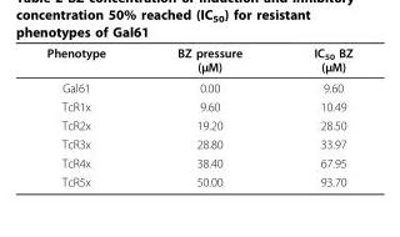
<table><thead><tr><td>Phenotype</td><td>BZ pressure (μM)</td><td>IC<sub>50</sub> BZ (μM)</td></tr></thead><tbody><tr><td>Gal61</td><td>0.00</td><td>9.60</td></tr><tr><td>TcR1x</td><td>9.60</td><td>10.49</td></tr><tr><td>TcR2x</td><td>19.20</td><td>28.50</td></tr><tr><td>TcR3x</td><td>28.80</td><td>33.97</td></tr><tr><td>TcR4x</td><td>38.40</td><td>67.95</td></tr><tr><td>TcR5x</td><td>50.00</td><td>93.70</td></tr></tbody></table>